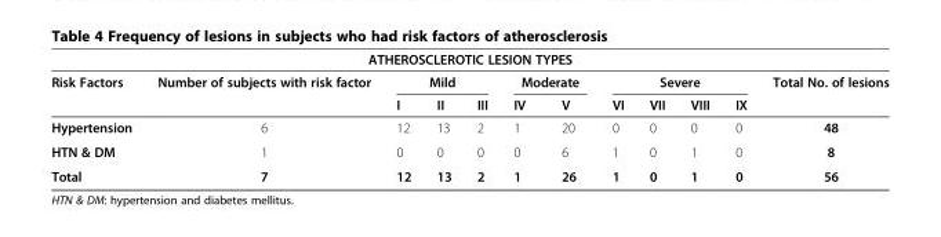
<table><thead><tr><td colspan="12">ATHEROSCLEROTIC LESION TYPES</td></tr><tr><td rowspan="2">Risk Factors</td><td rowspan="2">Number of subjects with risk factor</td><td colspan="3">Mild</td><td colspan="2">Moderate</td><td colspan="4">Severe</td><td rowspan="2">Total No. of lesions</td></tr><tr><td>I</td><td>II</td><td>III</td><td>IV</td><td>V</td><td>VI</td><td>VII</td><td>VIII</td><td>IX</td></tr></thead><tbody><tr><td>Hypertension</td><td>6</td><td>12</td><td>13</td><td>2</td><td>1</td><td>20</td><td>0</td><td>0</td><td>0</td><td>0</td><td>48</td></tr><tr><td>HTN &amp; DM</td><td>1</td><td>0</td><td>0</td><td>0</td><td>0</td><td>6</td><td>1</td><td>0</td><td>1</td><td>0</td><td>8</td></tr><tr><td>Total</td><td>7</td><td>12</td><td>13</td><td>2</td><td>1</td><td>26</td><td>1</td><td>0</td><td>1</td><td>0</td><td>56</td></tr></tbody></table>